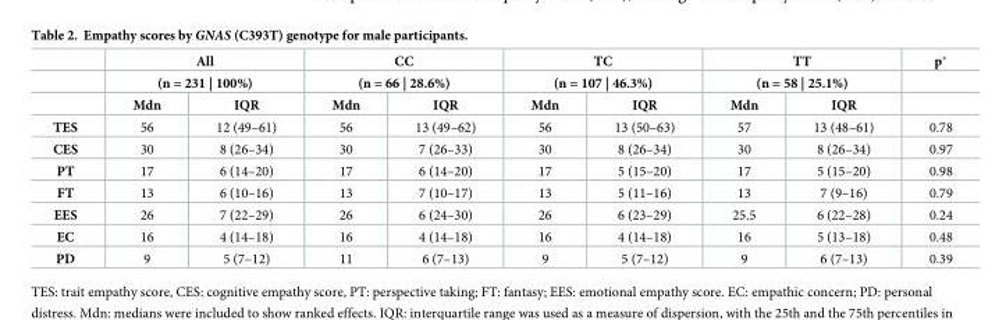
<table><thead><tr><td rowspan="3"></td><td rowspan="2" colspan="2">All (n = 231 | 100%)</td><td rowspan="2" colspan="2">CC (n = 66 | 28.6%)</td><td rowspan="2" colspan="2">TC (n = 107 | 46.3%)</td><td rowspan="2" colspan="2">TT (n = 58 | 25.1%)</td><td rowspan="3">p*</td></tr><tr></tr><tr><td>Mdn</td><td>IQR</td><td>Mdn</td><td>IQR</td><td>Mdn</td><td>IQR</td><td>Mdn</td><td>IQR</td></tr></thead><tbody><tr><td>TES</td><td>56</td><td>12 (49–61)</td><td>56</td><td>13 (49–62)</td><td>56</td><td>13 (50–63)</td><td>57</td><td>13 (48–61)</td><td>0.78</td></tr><tr><td>CES</td><td>30</td><td>8 (26–34)</td><td>30</td><td>7 (26–33)</td><td>30</td><td>8 (26–34)</td><td>30</td><td>8 (26–34)</td><td>0.97</td></tr><tr><td>PT</td><td>17</td><td>6 (14–20)</td><td>17</td><td>6 (14–20)</td><td>17</td><td>5 (15–20)</td><td>17</td><td>5 (15–20)</td><td>0.98</td></tr><tr><td>FT</td><td>13</td><td>6 (10–16)</td><td>13</td><td>7 (10–17)</td><td>13</td><td>5 (11–16)</td><td>13</td><td>7 (9–16)</td><td>0.79</td></tr><tr><td>EES</td><td>26</td><td>7 (22–29)</td><td>26</td><td>6 (24–30)</td><td>26</td><td>6 (23–29)</td><td>25.5</td><td>6 (22–28)</td><td>0.24</td></tr><tr><td>EC</td><td>16</td><td>4 (14–18)</td><td>16</td><td>4 (14–18)</td><td>16</td><td>4 (14–18)</td><td>16</td><td>5 (13–18)</td><td>0.48</td></tr><tr><td>PD</td><td>9</td><td>5 (7–12)</td><td>11</td><td>6 (7–13)</td><td>9</td><td>5 (7–12)</td><td>9</td><td>6 (7–13)</td><td>0.39</td></tr></tbody></table>